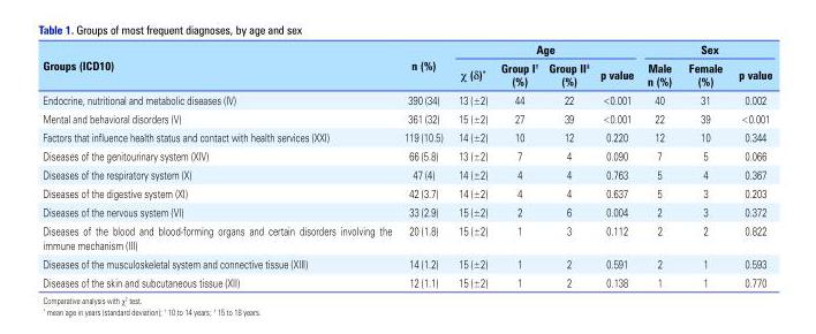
<table><thead><tr><td rowspan="2">Groups (ICD10)</td><td rowspan="2">n (%)</td><td colspan="4">Age</td><td colspan="3">Sex</td></tr><tr><td>χ (δ)*</td><td>Group I† (%)</td><td>Group II‡ (%)</td><td>p value</td><td>Male n (%)</td><td>Female (%)</td><td>p value</td></tr></thead><tbody><tr><td>Endocrine, nutritional and metabolic diseases (IV)</td><td>390 (34)</td><td>13 (±2)</td><td>44</td><td>22</td><td>&lt;0.001</td><td>40</td><td>31</td><td>0.002</td></tr><tr><td>Mental and behavioral disorders (V)</td><td>361 (32)</td><td>15 (±2)</td><td>27</td><td>39</td><td>&lt;0.001</td><td>22</td><td>39</td><td>&lt;0.001</td></tr><tr><td>Factors that influence health status and contact with health services (XXI)</td><td>119 (10.5)</td><td>14 (±2)</td><td>10</td><td>12</td><td>0.220</td><td>12</td><td>10</td><td>0.344</td></tr><tr><td>Diseases of the genitourinary system (XIV)</td><td>66 (5.8)</td><td>13 (±2)</td><td>7</td><td>4</td><td>0.090</td><td>7</td><td>5</td><td>0.066</td></tr><tr><td>Diseases of the respiratory system (X)</td><td>47 (4)</td><td>14 (±2)</td><td>4</td><td>4</td><td>0.763</td><td>5</td><td>4</td><td>0.367</td></tr><tr><td>Diseases of the digestive system (XI)</td><td>42 (3.7)</td><td>14 (±2)</td><td>4</td><td>4</td><td>0.637</td><td>5</td><td>3</td><td>0.203</td></tr><tr><td>Diseases of the nervous system (VI)</td><td>33 (2.9)</td><td>15 (±2)</td><td>2</td><td>6</td><td>0.004</td><td>2</td><td>3</td><td>0.372</td></tr><tr><td>Diseases of the blood and blood-forming organs and certain disorders involving the immune mechanism (III)</td><td>20 (1.8)</td><td>15 (±2)</td><td>1</td><td>3</td><td>0.112</td><td>2</td><td>2</td><td>0.822</td></tr><tr><td>Diseases of the musculoskeletal system and connective tissue (XIII)</td><td>14 (1.2)</td><td>15 (±2)</td><td>1</td><td>2</td><td>0.591</td><td>2</td><td>1</td><td>0.593</td></tr><tr><td>Diseases of the skin and subcutaneous tissue (XII)</td><td>12 (1.1)</td><td>15 (±2)</td><td>1</td><td>2</td><td>0.138</td><td>1</td><td>1</td><td>0.770</td></tr></tbody></table>